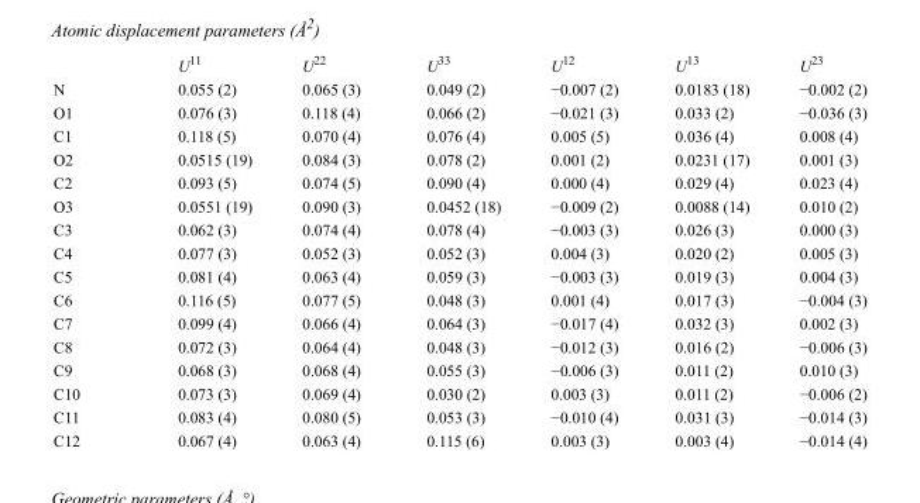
<table><thead><tr><td></td><td>U<sup>11</sup></td><td>U<sup>22</sup></td><td>U<sup>33</sup></td><td>U<sup>12</sup></td><td>U<sup>13</sup></td><td>U<sup>23</sup></td></tr></thead><tbody><tr><td>N</td><td>0.055 (2)</td><td>0.065 (3)</td><td>0.049 (2)</td><td>−0.007 (2)</td><td>0.0183 (18)</td><td>−0.002 (2)</td></tr><tr><td>O1</td><td>0.076 (3)</td><td>0.118 (4)</td><td>0.066 (2)</td><td>−0.021 (3)</td><td>0.033 (2)</td><td>−0.036 (3)</td></tr><tr><td>C1</td><td>0.118 (5)</td><td>0.070 (4)</td><td>0.076 (4)</td><td>0.005 (5)</td><td>0.036 (4)</td><td>0.008 (4)</td></tr><tr><td>O2</td><td>0.0515 (19)</td><td>0.084 (3)</td><td>0.078 (2)</td><td>0.001 (2)</td><td>0.0231 (17)</td><td>0.001 (3)</td></tr><tr><td>C2</td><td>0.093 (5)</td><td>0.074 (5)</td><td>0.090 (4)</td><td>0.000 (4)</td><td>0.029 (4)</td><td>0.023 (4)</td></tr><tr><td>O3</td><td>0.0551 (19)</td><td>0.090 (3)</td><td>0.0452 (18)</td><td>−0.009 (2)</td><td>0.0088 (14)</td><td>0.010 (2)</td></tr><tr><td>C3</td><td>0.062 (3)</td><td>0.074 (4)</td><td>0.078 (4)</td><td>−0.003 (3)</td><td>0.026 (3)</td><td>0.000 (3)</td></tr><tr><td>C4</td><td>0.077 (3)</td><td>0.052 (3)</td><td>0.052 (3)</td><td>0.004 (3)</td><td>0.020 (2)</td><td>0.005 (3)</td></tr><tr><td>C5</td><td>0.081 (4)</td><td>0.063 (4)</td><td>0.059 (3)</td><td>−0.003 (3)</td><td>0.019 (3)</td><td>0.004 (3)</td></tr><tr><td>C6</td><td>0.116 (5)</td><td>0.077 (5)</td><td>0.048 (3)</td><td>0.001 (4)</td><td>0.017 (3)</td><td>−0.004 (3)</td></tr><tr><td>C7</td><td>0.099 (4)</td><td>0.066 (4)</td><td>0.064 (3)</td><td>−0.017 (4)</td><td>0.032 (3)</td><td>0.002 (3)</td></tr><tr><td>C8</td><td>0.072 (3)</td><td>0.064 (4)</td><td>0.048 (3)</td><td>−0.012 (3)</td><td>0.016 (2)</td><td>−0.006 (3)</td></tr><tr><td>C9</td><td>0.068 (3)</td><td>0.068 (4)</td><td>0.055 (3)</td><td>−0.006 (3)</td><td>0.011 (2)</td><td>0.010 (3)</td></tr><tr><td>C10</td><td>0.073 (3)</td><td>0.069 (4)</td><td>0.030 (2)</td><td>0.003 (3)</td><td>0.011 (2)</td><td>−0.006 (2)</td></tr><tr><td>C11</td><td>0.083 (4)</td><td>0.080 (5)</td><td>0.053 (3)</td><td>−0.010 (4)</td><td>0.031 (3)</td><td>−0.014 (3)</td></tr><tr><td>C12</td><td>0.067 (4)</td><td>0.063 (4)</td><td>0.115 (6)</td><td>0.003 (3)</td><td>0.003 (4)</td><td>−0.014 (4)</td></tr></tbody></table>